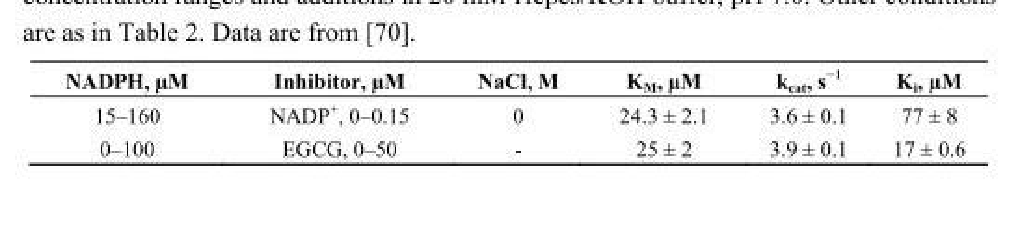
<table><thead><tr><td>NADPH, µM</td><td>Inhibitor, µM</td><td>NaCl, M</td><td>K<sub>M</sub>, µM</td><td>k<sub>cat</sub>, s<sup>−1</sup></td><td>K<sub>i</sub>, µM</td></tr></thead><tbody><tr><td>15–160</td><td>NADP<sup>+</sup>, 0–0.15</td><td>0</td><td>24.3 ± 2.1</td><td>3.6 ± 0.1</td><td>77 ± 8</td></tr><tr><td>0–100</td><td>EGCG, 0–50</td><td>-</td><td>25 ± 2</td><td>3.9 ± 0.1</td><td>17 ± 0.6</td></tr></tbody></table>